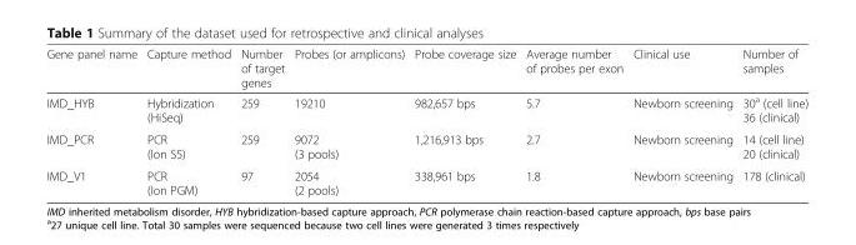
<table><thead><tr><td>Gene panel name</td><td>Capture method</td><td>Number of target genes</td><td>Probes (or amplicons)</td><td>Probe coverage size</td><td>Average number of probes per exon</td><td>Clinical use</td><td>Number of samples</td></tr></thead><tbody><tr><td>IMD_HYB</td><td>Hybridization (HiSeq)</td><td>259</td><td>19210</td><td>982,657 bps</td><td>5.7</td><td>Newborn screening</td><td>30<sup>a</sup> (cell line) 36 (clinical)</td></tr><tr><td>IMD_PCR</td><td>PCR (Ion S5)</td><td>259</td><td>9072 (3 pools)</td><td>1,216,913 bps</td><td>2.7</td><td>Newborn screening</td><td>14 (cell line) 20 (clinical)</td></tr><tr><td>IMD_V1</td><td>PCR (Ion PGM)</td><td>97</td><td>2054 (2 pools)</td><td>338,961 bps</td><td>1.8</td><td>Newborn screening</td><td>178 (clinical)</td></tr></tbody></table>